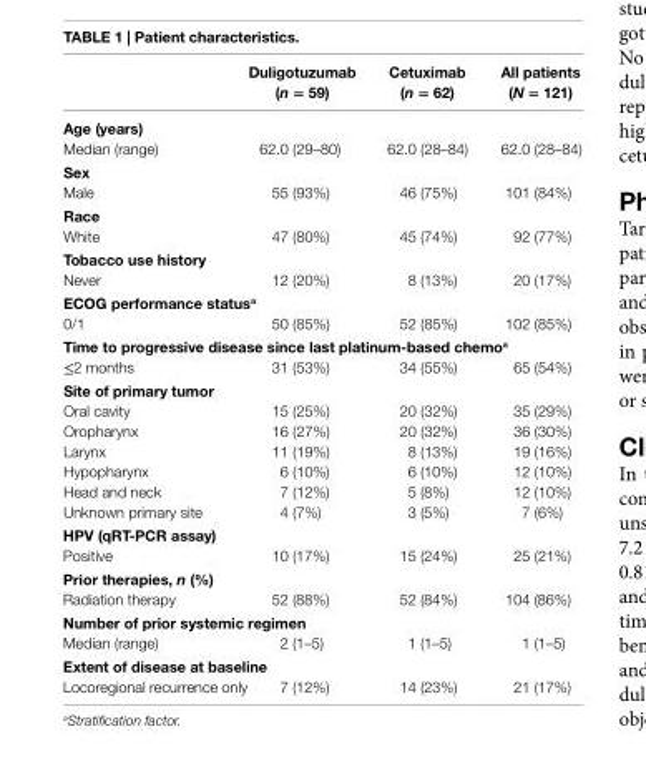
<table><thead><tr><td></td><td>Duligotuzumab (n = 59)</td><td>Cetuximab (n = 62)</td><td>all patients (N = 121)</td></tr></thead><tbody><tr><td colspan="4">age (years)</td></tr><tr><td>Median (range)</td><td>62.0 (29–80)</td><td>62.0 (28–84)</td><td>62.0 (28–84)</td></tr><tr><td colspan="4">Sex</td></tr><tr><td>Male</td><td>55 (93%)</td><td>46 (75%)</td><td>101 (84%)</td></tr><tr><td colspan="4">race</td></tr><tr><td>White</td><td>47 (80%)</td><td>45 (74%)</td><td>92 (77%)</td></tr><tr><td colspan="4">Tobacco use history</td></tr><tr><td>Never</td><td>12 (20%)</td><td>8 (13%)</td><td>20 (17%)</td></tr><tr><td colspan="4">ECOG performance status<sup>a</sup></td></tr><tr><td>0/1</td><td>50 (85%)</td><td>52 (85%)</td><td>102 (85%)</td></tr><tr><td colspan="4">Time to progressive disease since last platinum-based chemo<sup>a</sup></td></tr><tr><td>≤2 months</td><td>31 (53%)</td><td>34 (55%)</td><td>65 (54%)</td></tr><tr><td colspan="4">Site of primary tumor</td></tr><tr><td>Oral cavity</td><td>15 (25%)</td><td>20 (32%)</td><td>35 (29%)</td></tr><tr><td>Oropharynx</td><td>16 (27%)</td><td>20 (32%)</td><td>36 (30%)</td></tr><tr><td>Larynx</td><td>11 (19%)</td><td>8 (13%)</td><td>19 (16%)</td></tr><tr><td>Hypopharynx</td><td>6 (10%)</td><td>6 (10%)</td><td>12 (10%)</td></tr><tr><td>Head and neck</td><td>7 (12%)</td><td>5 (8%)</td><td>12 (10%)</td></tr><tr><td>Unknown primary site</td><td>4 (7%)</td><td>3 (5%)</td><td>7 (6%)</td></tr><tr><td colspan="4">HPV (qrT-PCr assay)</td></tr><tr><td>Positive</td><td>10 (17%)</td><td>15 (24%)</td><td>25 (21%)</td></tr><tr><td colspan="4">Prior therapies, n (%)</td></tr><tr><td>Radiation therapy</td><td>52 (88%)</td><td>52 (84%)</td><td>104 (86%)</td></tr><tr><td colspan="4">number of prior systemic regimen</td></tr><tr><td>Median (range)</td><td>2 (1–5)</td><td>1 (1–5)</td><td>1 (1–5)</td></tr><tr><td colspan="4">Extent of disease at baseline</td></tr><tr><td>Locoregional recurrence only</td><td>7 (12%)</td><td>14 (23%)</td><td>21 (17%)</td></tr></tbody></table>